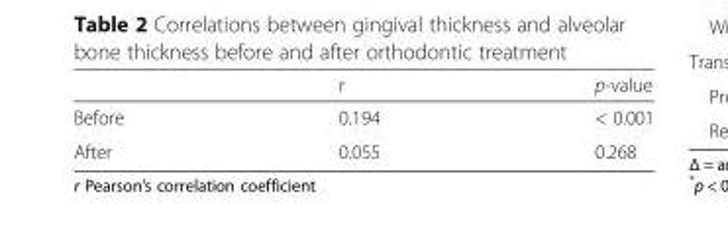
<table><thead><tr><td></td><td>r</td><td>p-value</td></tr></thead><tbody><tr><td>Before</td><td>0.194</td><td>&lt; 0.001</td></tr><tr><td>After</td><td>0.055</td><td>0.268</td></tr></tbody></table>